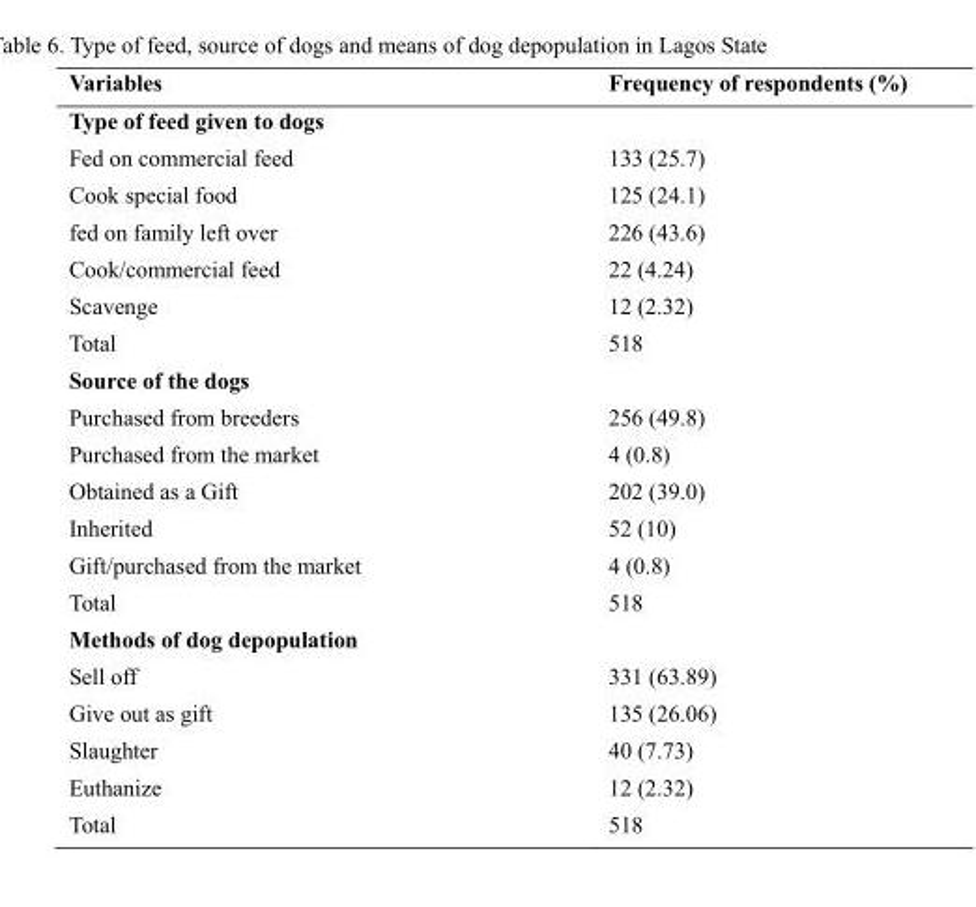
<table><thead><tr><td>Variables</td><td>Frequency of respondents (%)</td></tr></thead><tbody><tr><td colspan="2">Type of feed given to dogs</td></tr><tr><td>Fed on commercial feed</td><td>133 (25.7)</td></tr><tr><td>Cook special food</td><td>125 (24.1)</td></tr><tr><td>fed on family left over</td><td>226 (43.6)</td></tr><tr><td>Cook/commercial feed</td><td>22 (4.24)</td></tr><tr><td>Scavenge</td><td>12 (2.32)</td></tr><tr><td>Total</td><td>518</td></tr><tr><td colspan="2">Source of the dogs</td></tr><tr><td>Purchased from breeders</td><td>256 (49.8)</td></tr><tr><td>Purchased from the market</td><td>4 (0.8)</td></tr><tr><td>Obtained as a Gift</td><td>202 (39.0)</td></tr><tr><td>Inherited</td><td>52 (10)</td></tr><tr><td>Gift/purchased from the market</td><td>4 (0.8)</td></tr><tr><td>Total</td><td>518</td></tr><tr><td colspan="2">Methods of dog depopulation</td></tr><tr><td>Sell off</td><td>331 (63.89)</td></tr><tr><td>Give out as gift</td><td>135 (26.06)</td></tr><tr><td>Slaughter</td><td>40 (7.73)</td></tr><tr><td>Euthanize</td><td>12 (2.32)</td></tr><tr><td>Total</td><td>518</td></tr></tbody></table>